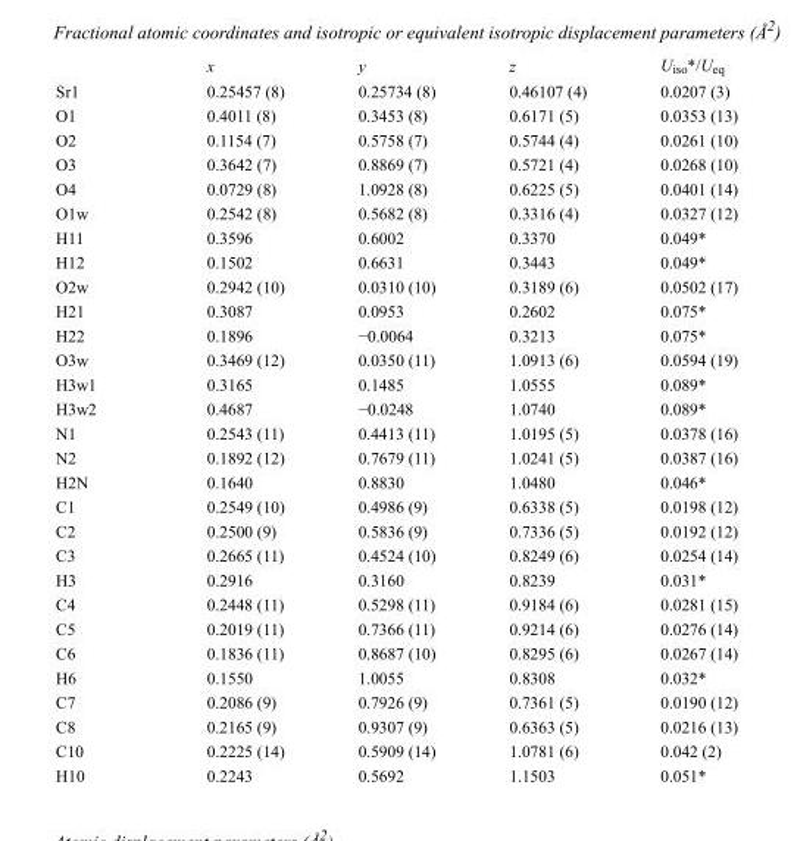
<table><thead><tr><td></td><td>x</td><td>y</td><td>z</td><td>U<sub>iso</sub>*/U<sub>eq</sub></td></tr></thead><tbody><tr><td>Sr1</td><td>0.25457 (8)</td><td>0.25734 (8)</td><td>0.46107 (4)</td><td>0.0207 (3)</td></tr><tr><td>O1</td><td>0.4011 (8)</td><td>0.3453 (8)</td><td>0.6171 (5)</td><td>0.0353 (13)</td></tr><tr><td>O2</td><td>0.1154 (7)</td><td>0.5758 (7)</td><td>0.5744 (4)</td><td>0.0261 (10)</td></tr><tr><td>O3</td><td>0.3642 (7)</td><td>0.8869 (7)</td><td>0.5721 (4)</td><td>0.0268 (10)</td></tr><tr><td>O4</td><td>0.0729 (8)</td><td>1.0928 (8)</td><td>0.6225 (5)</td><td>0.0401 (14)</td></tr><tr><td>O1w</td><td>0.2542 (8)</td><td>0.5682 (8)</td><td>0.3316 (4)</td><td>0.0327 (12)</td></tr><tr><td>H11</td><td>0.3596</td><td>0.6002</td><td>0.3370</td><td>0.049*</td></tr><tr><td>H12</td><td>0.1502</td><td>0.6631</td><td>0.3443</td><td>0.049*</td></tr><tr><td>O2w</td><td>0.2942 (10)</td><td>0.0310 (10)</td><td>0.3189 (6)</td><td>0.0502 (17)</td></tr><tr><td>H21</td><td>0.3087</td><td>0.0953</td><td>0.2602</td><td>0.075*</td></tr><tr><td>H22</td><td>0.1896</td><td>−0.0064</td><td>0.3213</td><td>0.075*</td></tr><tr><td>O3w</td><td>0.3469 (12)</td><td>0.0350 (11)</td><td>1.0913 (6)</td><td>0.0594 (19)</td></tr><tr><td>H3w1</td><td>0.3165</td><td>0.1485</td><td>1.0555</td><td>0.089*</td></tr><tr><td>H3w2</td><td>0.4687</td><td>−0.0248</td><td>1.0740</td><td>0.089*</td></tr><tr><td>N1</td><td>0.2543 (11)</td><td>0.4413 (11)</td><td>1.0195 (5)</td><td>0.0378 (16)</td></tr><tr><td>N2</td><td>0.1892 (12)</td><td>0.7679 (11)</td><td>1.0241 (5)</td><td>0.0387 (16)</td></tr><tr><td>H2N</td><td>0.1640</td><td>0.8830</td><td>1.0480</td><td>0.046*</td></tr><tr><td>C1</td><td>0.2549 (10)</td><td>0.4986 (9)</td><td>0.6338 (5)</td><td>0.0198 (12)</td></tr><tr><td>C2</td><td>0.2500 (9)</td><td>0.5836 (9)</td><td>0.7336 (5)</td><td>0.0192 (12)</td></tr><tr><td>C3</td><td>0.2665 (11)</td><td>0.4524 (10)</td><td>0.8249 (6)</td><td>0.0254 (14)</td></tr><tr><td>H3</td><td>0.2916</td><td>0.3160</td><td>0.8239</td><td>0.031*</td></tr><tr><td>C4</td><td>0.2448 (11)</td><td>0.5298 (11)</td><td>0.9184 (6)</td><td>0.0281 (15)</td></tr><tr><td>C5</td><td>0.2019 (11)</td><td>0.7366 (11)</td><td>0.9214 (6)</td><td>0.0276 (14)</td></tr><tr><td>C6</td><td>0.1836 (11)</td><td>0.8687 (10)</td><td>0.8295 (6)</td><td>0.0267 (14)</td></tr><tr><td>H6</td><td>0.1550</td><td>1.0055</td><td>0.8308</td><td>0.032*</td></tr><tr><td>C7</td><td>0.2086 (9)</td><td>0.7926 (9)</td><td>0.7361 (5)</td><td>0.0190 (12)</td></tr><tr><td>C8</td><td>0.2165 (9)</td><td>0.9307 (9)</td><td>0.6363 (5)</td><td>0.0216 (13)</td></tr><tr><td>C10</td><td>0.2225 (14)</td><td>0.5909 (14)</td><td>1.0781 (6)</td><td>0.042 (2)</td></tr><tr><td>H10</td><td>0.2243</td><td>0.5692</td><td>1.1503</td><td>0.051*</td></tr></tbody></table>